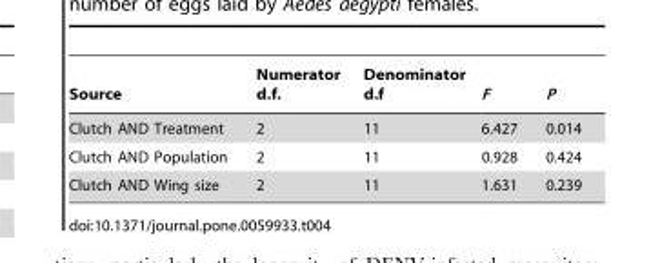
<table><thead><tr><td>Source</td><td>Numerator d.f.</td><td>Denominator d.f</td><td>F</td><td>P</td></tr></thead><tbody><tr><td>Clutch AND Treatment</td><td>2</td><td>11</td><td>6.427</td><td>0.014</td></tr><tr><td>Clutch AND Population</td><td>2</td><td>11</td><td>0.928</td><td>0.424</td></tr><tr><td>Clutch AND Wing size</td><td>2</td><td>11</td><td>1.631</td><td>0.239</td></tr></tbody></table>